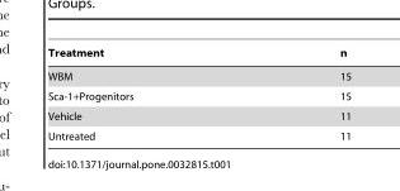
<table><thead><tr><td>Treatment</td><td>n</td></tr></thead><tbody><tr><td>WBM</td><td>15</td></tr><tr><td>Sca-1+Progenitors</td><td>15</td></tr><tr><td>Vehicle</td><td>11</td></tr><tr><td>Untreated</td><td>11</td></tr></tbody></table>